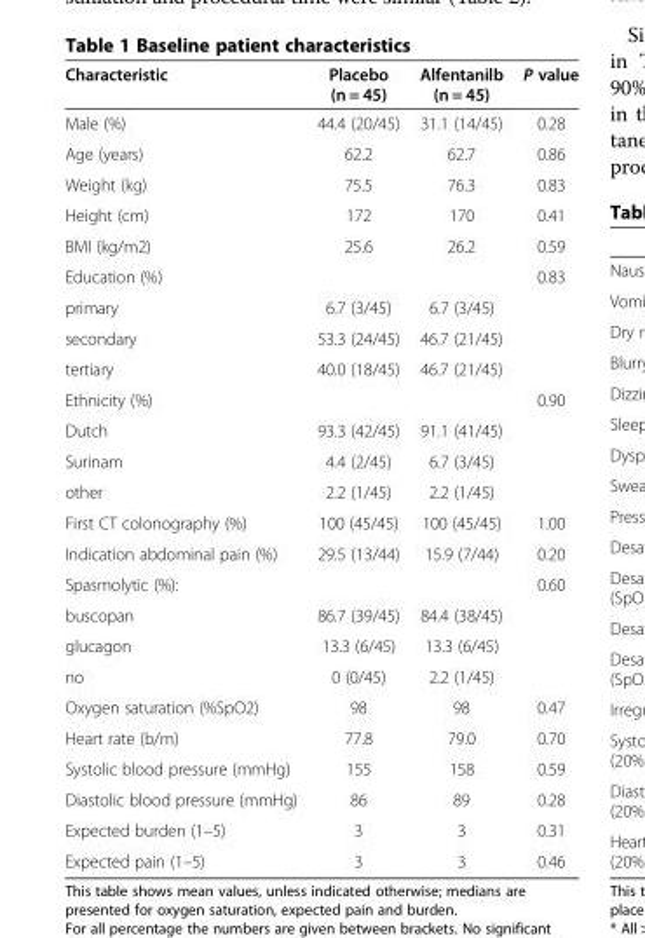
<table><thead><tr><td>Characteristic</td><td>Placebo (n = 45)</td><td>Alfentanilb (n = 45)</td><td>P value</td></tr></thead><tbody><tr><td>Male (%)</td><td>44.4 (20/45)</td><td>31.1 (14/45)</td><td>0.28</td></tr><tr><td>Age (years)</td><td>62.2</td><td>62.7</td><td>0.86</td></tr><tr><td>Weight (kg)</td><td>75.5</td><td>76.3</td><td>0.83</td></tr><tr><td>Height (cm)</td><td>172</td><td>170</td><td>0.41</td></tr><tr><td>BMI (kg/m2)</td><td>25.6</td><td>26.2</td><td>0.59</td></tr><tr><td>Education (%)</td><td></td><td></td><td>0.83</td></tr><tr><td>primary</td><td>6.7 (3/45)</td><td>6.7 (3/45)</td><td></td></tr><tr><td>secondary</td><td>53.3 (24/45)</td><td>46.7 (21/45)</td><td></td></tr><tr><td>tertiary</td><td>40.0 (18/45)</td><td>46.7 (21/45)</td><td></td></tr><tr><td>Ethnicity (%)</td><td></td><td></td><td>0.90</td></tr><tr><td>Dutch</td><td>93.3 (42/45)</td><td>91.1 (41/45)</td><td></td></tr><tr><td>Surinam</td><td>4.4 (2/45)</td><td>6.7 (3/45)</td><td></td></tr><tr><td>other</td><td>2.2 (1/45)</td><td>2.2 (1/45)</td><td></td></tr><tr><td>First CT colonography (%)</td><td>100 (45/45)</td><td>100 (45/45)</td><td>1.00</td></tr><tr><td>Indication abdominal pain (%)</td><td>29.5 (13/44)</td><td>15.9 (7/44)</td><td>0.20</td></tr><tr><td>Spasmolytic (%):</td><td></td><td></td><td>0.60</td></tr><tr><td>buscopan</td><td>86.7 (39/45)</td><td>84.4 (38/45)</td><td></td></tr><tr><td>glucagon</td><td>13.3 (6/45)</td><td>13.3 (6/45)</td><td></td></tr><tr><td>no</td><td>0 (0/45)</td><td>2.2 (1/45)</td><td></td></tr><tr><td>Oxygen saturation (%SpO2)</td><td>98</td><td>98</td><td>0.47</td></tr><tr><td>Heart rate (b/m)</td><td>77.8</td><td>79.0</td><td>0.70</td></tr><tr><td>Systolic blood pressure (mmHg)</td><td>155</td><td>158</td><td>0.59</td></tr><tr><td>Diastolic blood pressure (mmHg)</td><td>86</td><td>89</td><td>0.28</td></tr><tr><td>Expected burden (1–5)</td><td>3</td><td>3</td><td>0.31</td></tr><tr><td>Expected pain (1–5)</td><td>3</td><td>3</td><td>0.46</td></tr></tbody></table>